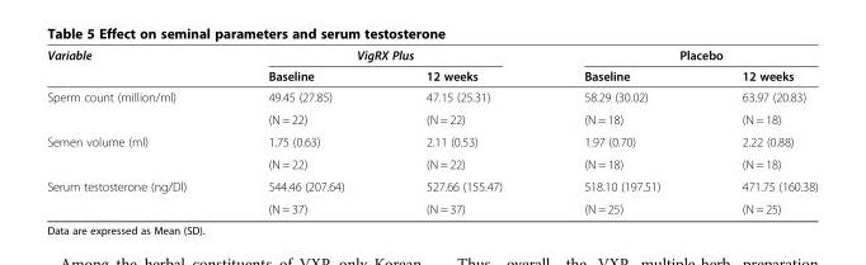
<table><thead><tr><td rowspan="2">Variable</td><td colspan="2">VigRX Plus</td><td colspan="2">Placebo</td></tr><tr><td>Baseline</td><td>12 weeks</td><td>Baseline</td><td>12 weeks</td></tr></thead><tbody><tr><td rowspan="2">Sperm count (million/ml)</td><td>49.45 (27.85)</td><td>47.15 (25.31)</td><td>58.29 (30.02)</td><td>63.97 (20.83)</td></tr><tr><td>(N = 22)</td><td>(N = 22)</td><td>(N = 18)</td><td>(N = 18)</td></tr><tr><td rowspan="2">Semen volume (ml)</td><td>1.75 (0.63)</td><td>2.11 (0.53)</td><td>1.97 (0.70)</td><td>2.22 (0.88)</td></tr><tr><td>(N = 22)</td><td>(N = 22)</td><td>(N = 18)</td><td>(N = 18)</td></tr><tr><td rowspan="2">Serum testosterone (ng/Dl)</td><td>544.46 (207.64)</td><td>527.66 (155.47)</td><td>518.10 (197.51)</td><td>471.75 (160.38)</td></tr><tr><td>(N = 37)</td><td>(N = 37)</td><td>(N = 25)</td><td>(N = 25)</td></tr></tbody></table>